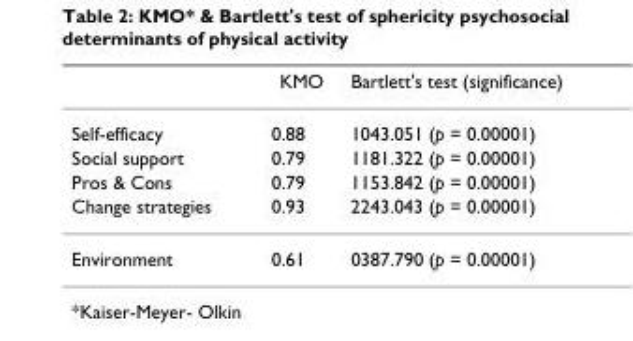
<table><thead><tr><td></td><td>KMO</td><td>Bartlett&#x27;s test (significance)</td></tr></thead><tbody><tr><td>Self-efficacy</td><td>0.88</td><td>1043.051 (p = 0.00001)</td></tr><tr><td>Social support</td><td>0.79</td><td>1181.322 (p = 0.00001)</td></tr><tr><td>Pros &amp; Cons</td><td>0.79</td><td>1153.842 (p = 0.00001)</td></tr><tr><td>Change strategies</td><td>0.93</td><td>2243.043 (p = 0.00001)</td></tr><tr><td>Environment</td><td>0.61</td><td>0387.790 (p = 0.00001)</td></tr></tbody></table>